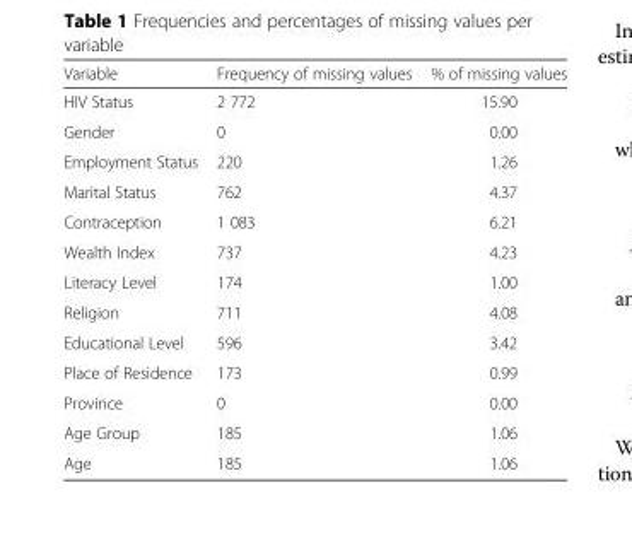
<table><thead><tr><td>Variable</td><td>Frequency of missing values</td><td>% of missing values</td></tr></thead><tbody><tr><td>HIV Status</td><td>2 772</td><td>15.90</td></tr><tr><td>Gender</td><td>0</td><td>0.00</td></tr><tr><td>Employment Status</td><td>220</td><td>1.26</td></tr><tr><td>Marital Status</td><td>762</td><td>4.37</td></tr><tr><td>Contraception</td><td>1 083</td><td>6.21</td></tr><tr><td>Wealth Index</td><td>737</td><td>4.23</td></tr><tr><td>Literacy Level</td><td>174</td><td>1.00</td></tr><tr><td>Religion</td><td>711</td><td>4.08</td></tr><tr><td>Educational Level</td><td>596</td><td>3.42</td></tr><tr><td>Place of Residence</td><td>173</td><td>0.99</td></tr><tr><td>Province</td><td>0</td><td>0.00</td></tr><tr><td>Age Group</td><td>185</td><td>1.06</td></tr><tr><td>Age</td><td>185</td><td>1.06</td></tr></tbody></table>